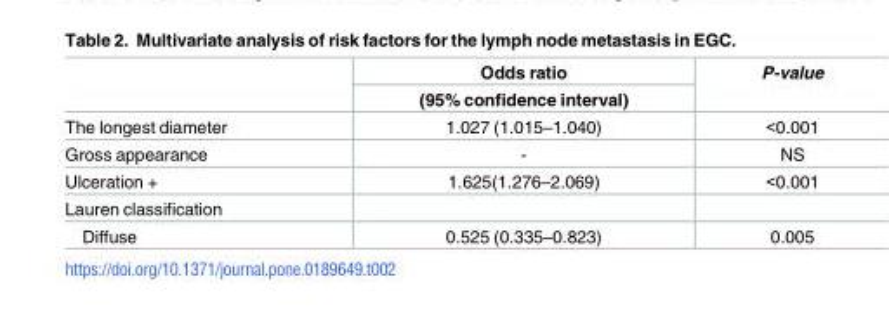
<table><thead><tr><td rowspan="2"></td><td rowspan="2">Odds ratio (95% confidence interval)</td><td rowspan="2">P-value</td></tr><tr></tr></thead><tbody><tr><td>The longest diameter</td><td>1.027 (1.015–1.040)</td><td>&lt;0.001</td></tr><tr><td>Gross appearance</td><td>-</td><td>NS</td></tr><tr><td>Ulceration +</td><td>1.625(1.276–2.069)</td><td>&lt;0.001</td></tr><tr><td colspan="3">Lauren classification</td></tr><tr><td>Diffuse</td><td>0.525 (0.335–0.823)</td><td>0.005</td></tr></tbody></table>